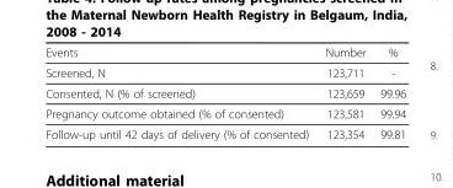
<table><thead><tr><td>Events</td><td>Number</td><td>%</td></tr></thead><tbody><tr><td>Screened, N</td><td>123,711</td><td>-</td></tr><tr><td>Consented, N (% of screened)</td><td>123,659</td><td>99.96</td></tr><tr><td>Pregnancy outcome obtained (% of consented)</td><td>123,581</td><td>99.94</td></tr><tr><td>Follow-up until 42 days of delivery (% of consented)</td><td>123,354</td><td>99.81</td></tr></tbody></table>